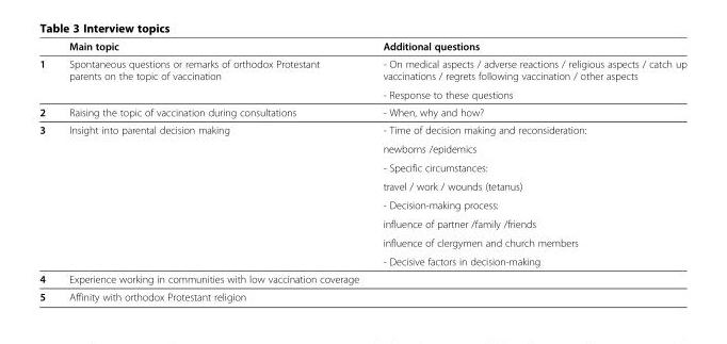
<table><thead><tr><td></td><td>Main topic</td><td>Additional questions</td></tr></thead><tbody><tr><td rowspan="2">1</td><td>Spontaneous questions or remarks of orthodox Protestant parents on the topic of vaccination</td><td>- On medical aspects / adverse reactions / religious aspects / catch up vaccinations / regrets following vaccination / other aspects</td></tr><tr><td></td><td>- Response to these questions</td></tr><tr><td>2</td><td>Raising the topic of vaccination during consultations</td><td>- When, why and how?</td></tr><tr><td rowspan="8">3</td><td>Insight into parental decision making</td><td>- Time of decision making and reconsideration:</td></tr><tr><td></td><td>newborns /epidemics</td></tr><tr><td></td><td>- Specific circumstances:</td></tr><tr><td></td><td>travel / work / wounds (tetanus)</td></tr><tr><td></td><td>- Decision-making process:</td></tr><tr><td></td><td>influence of partner /family /friends</td></tr><tr><td></td><td>influence of clergymen and church members</td></tr><tr><td></td><td>- Decisive factors in decision-making</td></tr><tr><td>4</td><td>Experience working in communities with low vaccination coverage</td><td></td></tr><tr><td>5</td><td>Affinity with orthodox Protestant religion</td><td></td></tr></tbody></table>